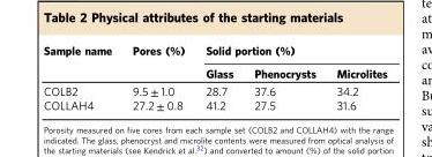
<table><thead><tr><td rowspan="2">Sample name</td><td rowspan="2">Pores (%)</td><td colspan="3">Solid portion (%)</td></tr><tr><td>Glass</td><td>Phenocrysts</td><td>Microlites</td></tr></thead><tbody><tr><td>COLB2</td><td>9.5 ± 1.0</td><td>28.7</td><td>37.6</td><td>34.2</td></tr><tr><td>COLLAH4</td><td>27.2 ± 0.8</td><td>41.2</td><td>27.5</td><td>31.6</td></tr></tbody></table>